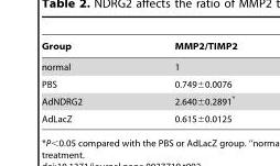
<table><thead><tr><td>Group</td><td>MMP2/TIMP2</td></tr></thead><tbody><tr><td>normal</td><td>1</td></tr><tr><td>PBS</td><td>0.749±0.0076</td></tr><tr><td>AdNDRG2</td><td>2.640±0.2891*</td></tr><tr><td>AdLacZ</td><td>0.615±0.0125</td></tr></tbody></table>